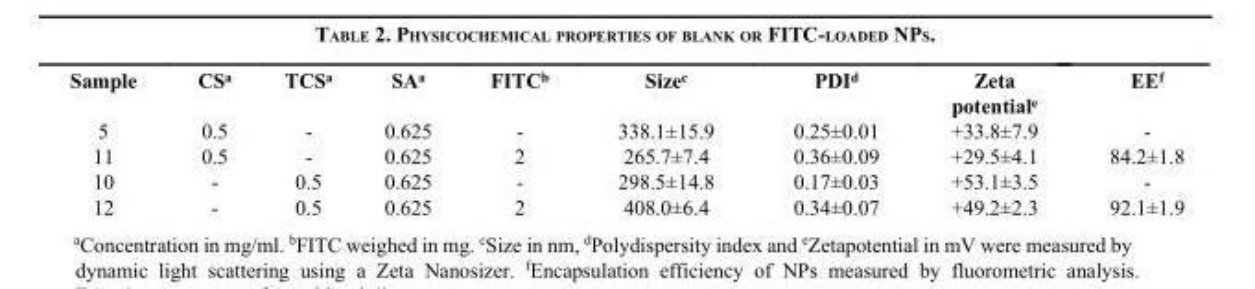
<table><thead><tr><td>Sample</td><td>CS<sup>a</sup></td><td>TCS<sup>a</sup></td><td>SA<sup>a</sup></td><td>FITC<sup>b</sup></td><td>Size<sup>c</sup></td><td>PDI<sup>d</sup></td><td>Zeta potential<sup>e</sup></td><td>EE<sup>f</sup></td></tr></thead><tbody><tr><td>5</td><td>0.5</td><td>-</td><td>0.625</td><td>-</td><td>338.1±15.9</td><td>0.25±0.01</td><td>+33.8±7.9</td><td>-</td></tr><tr><td>11</td><td>0.5</td><td>-</td><td>0.625</td><td>2</td><td>265.7±7.4</td><td>0.36±0.09</td><td>+29.5±4.1</td><td>84.2±1.8</td></tr><tr><td>10</td><td>-</td><td>0.5</td><td>0.625</td><td>-</td><td>298.5±14.8</td><td>0.17±0.03</td><td>+53.1±3.5</td><td>-</td></tr><tr><td>12</td><td>-</td><td>0.5</td><td>0.625</td><td>2</td><td>408.0±6.4</td><td>0.34±0.07</td><td>+49.2±2.3</td><td>92.1±1.9</td></tr></tbody></table>